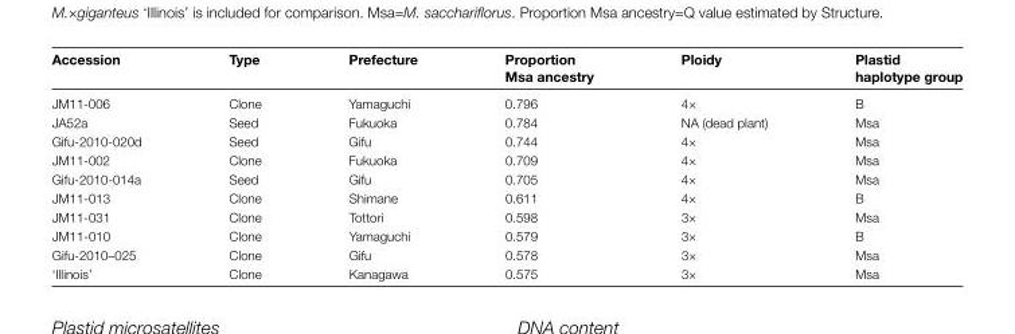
<table><thead><tr><td>Accession</td><td>Type</td><td>Prefecture</td><td>Proportion Msa ancestry</td><td>Ploidy</td><td>Plastid haplotype group</td></tr></thead><tbody><tr><td>JM11-006</td><td>Clone</td><td>Yamaguchi</td><td>0.796</td><td>4×</td><td>B</td></tr><tr><td>JA52a</td><td>Seed</td><td>Fukuoka</td><td>0.784</td><td>NA (dead plant)</td><td>Msa</td></tr><tr><td>Gifu-2010-020d</td><td>Seed</td><td>Gifu</td><td>0.744</td><td>4×</td><td>Msa</td></tr><tr><td>JM11-002</td><td>Clone</td><td>Fukuoka</td><td>0.709</td><td>4×</td><td>Msa</td></tr><tr><td>Gifu-2010-014a</td><td>Seed</td><td>Gifu</td><td>0.705</td><td>4×</td><td>Msa</td></tr><tr><td>JM11-013</td><td>Clone</td><td>Shimane</td><td>0.611</td><td>4×</td><td>B</td></tr><tr><td>JM11-031</td><td>Clone</td><td>Tottori</td><td>0.598</td><td>3×</td><td>Msa</td></tr><tr><td>JM11-010</td><td>Clone</td><td>Yamaguchi</td><td>0.579</td><td>3×</td><td>B</td></tr><tr><td>Gifu-2010–025</td><td>Clone</td><td>Gifu</td><td>0.578</td><td>3×</td><td>Msa</td></tr><tr><td>‘Illinois’</td><td>Clone</td><td>Kanagawa</td><td>0.575</td><td>3×</td><td>Msa</td></tr></tbody></table>